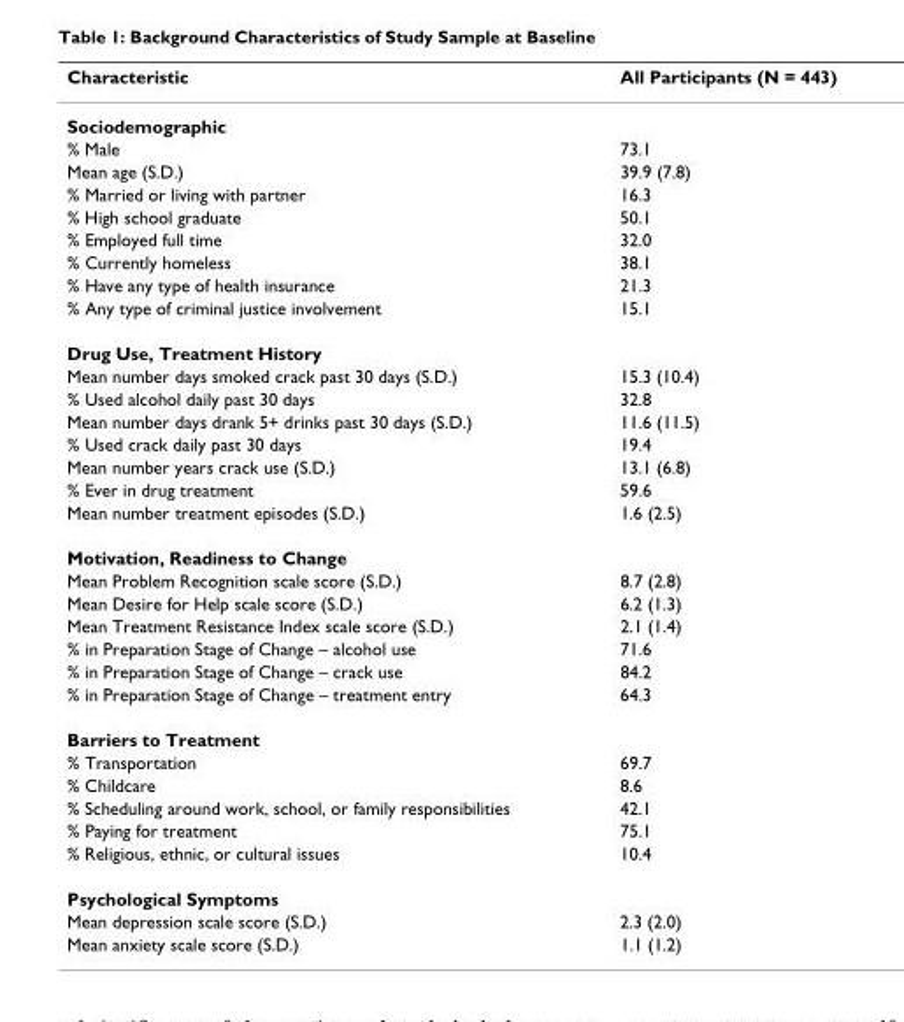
<table><thead><tr><td>Characteristic</td><td>All Participants (N = 443)</td></tr></thead><tbody><tr><td colspan="2">Sociodemographic</td></tr><tr><td>% Male</td><td>73.1</td></tr><tr><td>Mean age (S.D.)</td><td>39.9 (7.8)</td></tr><tr><td>% Married or living with partner</td><td>16.3</td></tr><tr><td>% High school graduate</td><td>50.1</td></tr><tr><td>% Employed full time</td><td>32.0</td></tr><tr><td>% Currently homeless</td><td>38.1</td></tr><tr><td>% Have any type of health insurance</td><td>21.3</td></tr><tr><td>% Any type of criminal justice involvement</td><td>15.1</td></tr><tr><td colspan="2">Drug Use, Treatment History</td></tr><tr><td>Mean number days smoked crack past 30 days (S.D.)</td><td>15.3 (10.4)</td></tr><tr><td>% Used alcohol daily past 30 days</td><td>32.8</td></tr><tr><td>Mean number days drank 5+ drinks past 30 days (S.D.)</td><td>11.6 (11.5)</td></tr><tr><td>% Used crack daily past 30 days</td><td>19.4</td></tr><tr><td>Mean number years crack use (S.D.)</td><td>13.1 (6.8)</td></tr><tr><td>% Ever in drug treatment</td><td>59.6</td></tr><tr><td>Mean number treatment episodes (S.D.)</td><td>1.6 (2.5)</td></tr><tr><td colspan="2">Motivation, Readiness to Change</td></tr><tr><td>Mean Problem Recognition scale score (S.D.)</td><td>8.7 (2.8)</td></tr><tr><td>Mean Desire for Help scale score (S.D.)</td><td>6.2 (1.3)</td></tr><tr><td>Mean Treatment Resistance Index scale score (S.D.)</td><td>2.1 (1.4)</td></tr><tr><td>% in Preparation Stage of Change – alcohol use</td><td>71.6</td></tr><tr><td>% in Preparation Stage of Change – crack use</td><td>84.2</td></tr><tr><td>% in Preparation Stage of Change – treatment entry</td><td>64.3</td></tr><tr><td colspan="2">Barriers to Treatment</td></tr><tr><td>% Transportation</td><td>69.7</td></tr><tr><td>% Childcare</td><td>8.6</td></tr><tr><td>% Scheduling around work, school, or family responsibilities</td><td>42.1</td></tr><tr><td>% Paying for treatment</td><td>75.1</td></tr><tr><td>% Religious, ethnic, or cultural issues</td><td>10.4</td></tr><tr><td colspan="2">Psychological Symptoms</td></tr><tr><td>Mean depression scale score (S.D.)</td><td>2.3 (2.0)</td></tr><tr><td>Mean anxiety scale score (S.D.)</td><td>1.1 (1.2)</td></tr></tbody></table>